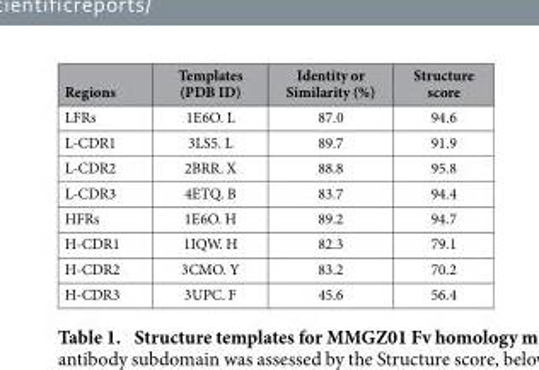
<table><thead><tr><td>Regions</td><td>Templates (PDB ID)</td><td>Identity or Similarity (%)</td><td>Structure score</td></tr></thead><tbody><tr><td>LFRs</td><td>1E6O. L</td><td>87.0</td><td>94.6</td></tr><tr><td>L-CDR1</td><td>3LS5. L</td><td>89.7</td><td>91.9</td></tr><tr><td>L-CDR2</td><td>2BRR. X</td><td>88.8</td><td>95.8</td></tr><tr><td>L-CDR3</td><td>4ETQ. B</td><td>83.7</td><td>94.4</td></tr><tr><td>HFRs</td><td>1E6O. H</td><td>89.2</td><td>94.7</td></tr><tr><td>H-CDR1</td><td>1IQW. H</td><td>82.3</td><td>79.1</td></tr><tr><td>H-CDR2</td><td>3CMO. Y</td><td>83.2</td><td>70.2</td></tr><tr><td>H-CDR3</td><td>3UPC. F</td><td>45.6</td><td>56.4</td></tr></tbody></table>